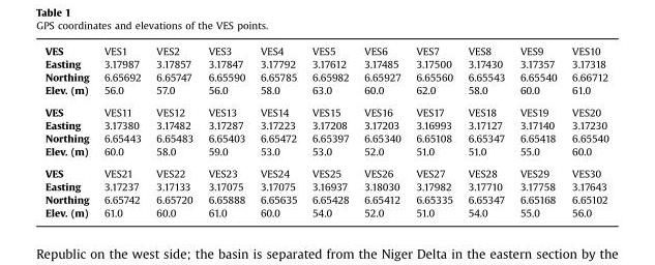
<table><tbody><tr><td>VES</td><td>VES1</td><td>VES2</td><td>VES3</td><td>VES4</td><td>VES5</td><td>VES6</td><td>VES7</td><td>VES8</td><td>VES9</td><td>VES10</td></tr><tr><td>Easting</td><td>3.17987</td><td>3.17857</td><td>3.17847</td><td>3.17792</td><td>3.17612</td><td>3.17485</td><td>3.17500</td><td>3.17430</td><td>3.17357</td><td>3.17318</td></tr><tr><td>Northing</td><td>6.65692</td><td>6.65747</td><td>6.65590</td><td>6.65785</td><td>6.65982</td><td>6.65927</td><td>6.65560</td><td>6.65543</td><td>6.65540</td><td>6.66712</td></tr><tr><td>Elev. (m)</td><td>56.0</td><td>57.0</td><td>56.0</td><td>58.0</td><td>63.0</td><td>60.0</td><td>62.0</td><td>58.0</td><td>60.0</td><td>61.0</td></tr><tr><td>VES</td><td>VES11</td><td>VES12</td><td>VES13</td><td>VES14</td><td>VES15</td><td>VES16</td><td>VES17</td><td>VES18</td><td>VES19</td><td>VES20</td></tr><tr><td>Easting</td><td>3.17380</td><td>3.17482</td><td>3.17287</td><td>3.17223</td><td>3.17208</td><td>3.17203</td><td>3.16993</td><td>3.17127</td><td>3.17140</td><td>3.17230</td></tr><tr><td>Northing</td><td>6.65443</td><td>6.65483</td><td>6.65403</td><td>6.65472</td><td>6.65397</td><td>6.65340</td><td>6.65108</td><td>6.65347</td><td>6.65418</td><td>6.65540</td></tr><tr><td>Elev. (m)</td><td>60.0</td><td>58.0</td><td>59.0</td><td>53.0</td><td>53.0</td><td>52.0</td><td>51.0</td><td>51.0</td><td>55.0</td><td>60.0</td></tr><tr><td>VES</td><td>VES21</td><td>VES22</td><td>VES23</td><td>VES24</td><td>VES25</td><td>VES26</td><td>VES27</td><td>VES28</td><td>VES29</td><td>VES30</td></tr><tr><td>Easting</td><td>3.17237</td><td>3.17133</td><td>3.17075</td><td>3.17075</td><td>3.16937</td><td>3.18030</td><td>3.17982</td><td>3.17710</td><td>3.17758</td><td>3.17643</td></tr><tr><td>Northing</td><td>6.65742</td><td>6.65720</td><td>6.65888</td><td>6.65635</td><td>6.65428</td><td>6.65412</td><td>6.65335</td><td>6.65347</td><td>6.65168</td><td>6.65102</td></tr><tr><td>Elev. (m)</td><td>61.0</td><td>60.0</td><td>61.0</td><td>60.0</td><td>54.0</td><td>52.0</td><td>51.0</td><td>54.0</td><td>55.0</td><td>56.0</td></tr></tbody></table>